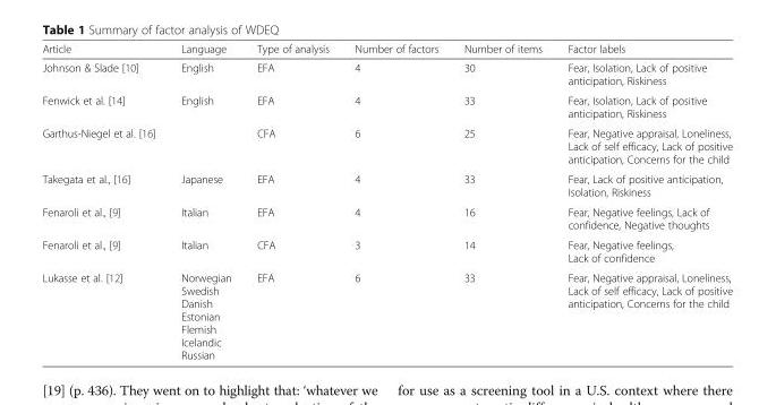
<table><thead><tr><td>Article</td><td>Language</td><td>Type of analysis</td><td>Number of factors</td><td>Number of items</td><td>Factor labels</td></tr></thead><tbody><tr><td>Johnson &amp; Slade [10]</td><td>English</td><td>EFA</td><td>4</td><td>30</td><td>Fear, Isolation, Lack of positive anticipation, Riskiness</td></tr><tr><td>Fenwick et al. [14]</td><td>English</td><td>EFA</td><td>4</td><td>33</td><td>Fear, Isolation, Lack of positive anticipation, Riskiness</td></tr><tr><td>Garthus-Niegel et al. [16]</td><td></td><td>CFA</td><td>6</td><td>25</td><td>Fear, Negative appraisal, Loneliness, Lack of self efficacy, Lack of positive anticipation, Concerns for the child</td></tr><tr><td>Takegata et al., [16]</td><td>Japanese</td><td>EFA</td><td>4</td><td>33</td><td>Fear, Lack of positive anticipation, Isolation, Riskiness</td></tr><tr><td>Fenaroli et al., [9]</td><td>Italian</td><td>EFA</td><td>4</td><td>16</td><td>Fear, Negative feelings, Lack of confidence, Negative thoughts</td></tr><tr><td>Fenaroli et al., [9]</td><td>Italian</td><td>CFA</td><td>3</td><td>14</td><td>Fear, Negative feelings, Lack of confidence</td></tr><tr><td>Lukasse et al. [12]</td><td>Norwegian Swedish Danish Estonian Flemish Icelandic Russian</td><td>EFA</td><td>6</td><td>33</td><td>Fear, Negative appraisal, Loneliness, Lack of self efficacy, Lack of positive anticipation, Concerns for the child</td></tr></tbody></table>